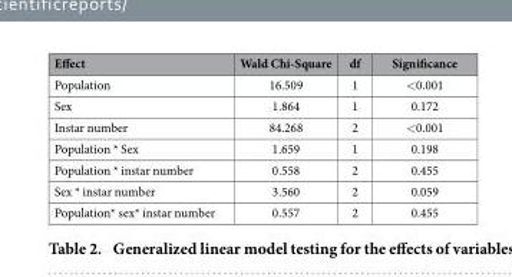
<table><thead><tr><td>Effect</td><td>Wald Chi-Square</td><td>df</td><td>Significance</td></tr></thead><tbody><tr><td>Population</td><td>16.509</td><td>1</td><td>&lt; 0.001</td></tr><tr><td>Sex</td><td>1.864</td><td>1</td><td>0.172</td></tr><tr><td>Instar number</td><td>84.268</td><td>2</td><td>&lt; 0.001</td></tr><tr><td>Population * Sex</td><td>1.659</td><td>1</td><td>0.198</td></tr><tr><td>Population * instar number</td><td>0.558</td><td>2</td><td>0.455</td></tr><tr><td>Sex * instar number</td><td>3.560</td><td>2</td><td>0.059</td></tr><tr><td>Population* sex* instar number</td><td>0.557</td><td>2</td><td>0.455</td></tr></tbody></table>